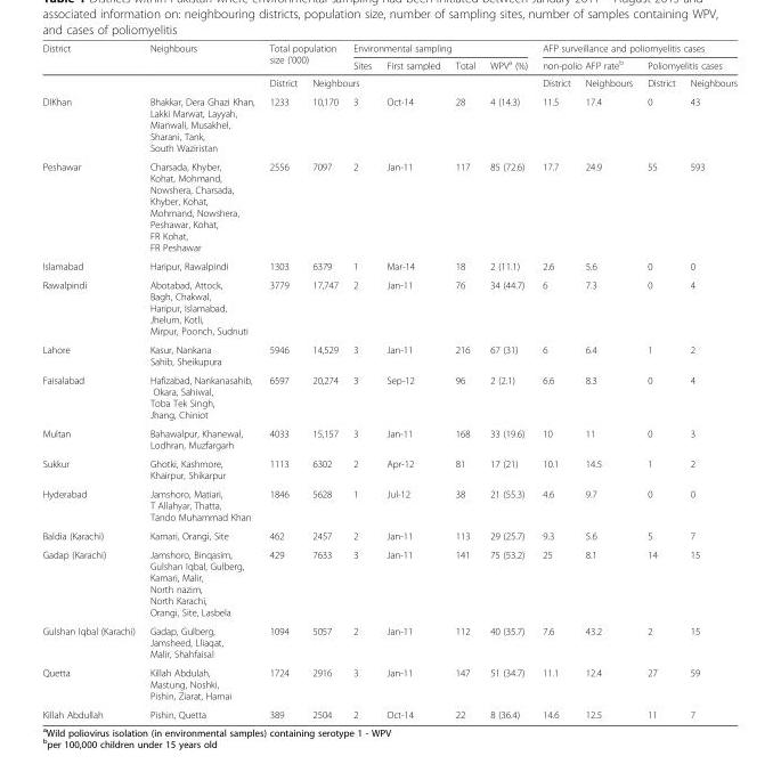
<table><thead><tr><td rowspan="2">District</td><td rowspan="2">Neighbours</td><td rowspan="2" colspan="2">Total population size (‘000)</td><td colspan="4">Environmental sampling</td><td colspan="4">AFP surveillance and poliomyelitis cases</td></tr><tr><td>Sites</td><td>First sampled</td><td>Total</td><td>WPV<sup>a</sup> (%)</td><td colspan="2">non-polio AFP rate<sup>b</sup></td><td colspan="2">Poliomyelitis cases</td></tr><tr><td colspan="2"></td><td rowspan="2">District 1233</td><td colspan="5">Neighbours</td><td rowspan="2">District 11.5</td><td rowspan="2">Neighbours 17.4</td><td rowspan="2">District 0</td><td rowspan="2">Neighbours 43</td></tr><tr><td>DIKhan</td><td>Bhakkar, Dera Ghazi Khan, Lakki Marwat, Layyah, Mianwali, Musakhel, Sharani, Tank, South Waziristan</td><td>10,170</td><td>3</td><td>Oct-14</td><td>28</td><td>4 (14.3)</td></tr></thead><tbody><tr><td>Peshawar</td><td>Charsada, Khyber, Kohat, Mohmand, Nowshera, Charsada, Khyber, Kohat, Mohmand, Nowshera, Peshawar, Kohat, FR Kohat, FR Peshawar</td><td>2556</td><td>7097</td><td>2</td><td>Jan-11</td><td>117</td><td>85 (72.6)</td><td>17.7</td><td>24.9</td><td>55</td><td>593</td></tr><tr><td>Islamabad</td><td>Haripur, Rawalpindi</td><td>1303</td><td>6379</td><td>1</td><td>Mar-14</td><td>18</td><td>2 (11.1)</td><td>2.6</td><td>5.6</td><td>0</td><td>0</td></tr><tr><td>Rawalpindi</td><td>Abotabad, Attock, Bagh, Chakwal, Haripur, Islamabad, Jhelum, Kotli, Mirpur, Poonch, Sudnuti</td><td>3779</td><td>17,747</td><td>2</td><td>Jan-11</td><td>76</td><td>34 (44.7)</td><td>6</td><td>7.3</td><td>0</td><td>4</td></tr><tr><td>Lahore</td><td>Kasur, Nankana Sahib, Sheikupura</td><td>5946</td><td>14,529</td><td>3</td><td>Jan-11</td><td>216</td><td>67 (31)</td><td>6</td><td>6.4</td><td>1</td><td>2</td></tr><tr><td>Faisalabad</td><td>Hafizabad, Nankanasahib, Okara, Sahiwal, Toba Tek Singh, Jhang, Chiniot</td><td>6597</td><td>20,274</td><td>3</td><td>Sep-12</td><td>96</td><td>2 (2.1)</td><td>6.6</td><td>8.3</td><td>0</td><td>4</td></tr><tr><td>Multan</td><td>Bahawalpur, Khanewal, Lodhran, Muzfargarh</td><td>4033</td><td>15,157</td><td>3</td><td>Jan-11</td><td>168</td><td>33 (19.6)</td><td>10</td><td>11</td><td>0</td><td>3</td></tr><tr><td>Sukkur</td><td>Ghotki, Kashmore, Khairpur, Shikarpur</td><td>1113</td><td>6302</td><td>2</td><td>Apr-12</td><td>81</td><td>17 (21)</td><td>10.1</td><td>14.5</td><td>1</td><td>2</td></tr><tr><td>Hyderabad</td><td>Jamshoro, Matiari, T Allahyar, Thatta, Tando Muhammad Khan</td><td>1846</td><td>5628</td><td>1</td><td>Jul-12</td><td>38</td><td>21 (55.3)</td><td>4.6</td><td>9.7</td><td>0</td><td>0</td></tr><tr><td>Baldia (Karachi)</td><td>Kamari, Orangi, Site</td><td>462</td><td>2457</td><td>2</td><td>Jan-11</td><td>113</td><td>29 (25.7)</td><td>9.3</td><td>5.6</td><td>5</td><td>7</td></tr><tr><td>Gadap (Karachi)</td><td>Jamshoro, Binqasim, Gulshan Iqbal, Gulberg, Kamari, Malir, North nazim, North Karachi, Orangi, Site, Lasbela</td><td>429</td><td>7633</td><td>3</td><td>Jan-11</td><td>141</td><td>75 (53.2)</td><td>25</td><td>8.1</td><td>14</td><td>15</td></tr><tr><td>Gulshan Iqbal (Karachi)</td><td>Gadap, Gulberg, Jamsheed, Lliaqat, Malir, Shahfaisal</td><td>1094</td><td>5057</td><td>2</td><td>Jan-11</td><td>112</td><td>40 (35.7)</td><td>7.6</td><td>43.2</td><td>2</td><td>15</td></tr><tr><td>Quetta</td><td>Killah Abdulah, Mastung, Noshki, Pishin, Ziarat, Harnai</td><td>1724</td><td>2916</td><td>3</td><td>Jan-11</td><td>147</td><td>51 (34.7)</td><td>11.1</td><td>12.4</td><td>27</td><td>59</td></tr><tr><td>Killah Abdullah</td><td>Pishin, Quetta</td><td>389</td><td>2504</td><td>2</td><td>Oct-14</td><td>22</td><td>8 (36.4)</td><td>14.6</td><td>12.5</td><td>11</td><td>7</td></tr></tbody></table>